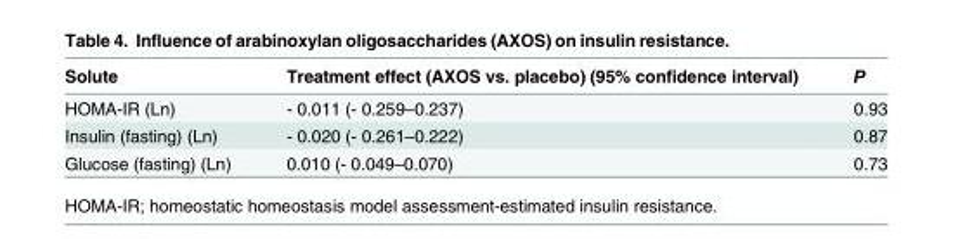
<table><thead><tr><td>Solute</td><td>Treatment effect (AXOS vs. placebo) (95% confidence interval)</td><td>P</td></tr></thead><tbody><tr><td>HOMA-IR (Ln)</td><td>- 0.011 (- 0.259–0.237)</td><td>0.93</td></tr><tr><td>Insulin (fasting) (Ln)</td><td>- 0.020 (- 0.261–0.222)</td><td>0.87</td></tr><tr><td>Glucose (fasting) (Ln)</td><td>0.010 (- 0.049–0.070)</td><td>0.73</td></tr></tbody></table>